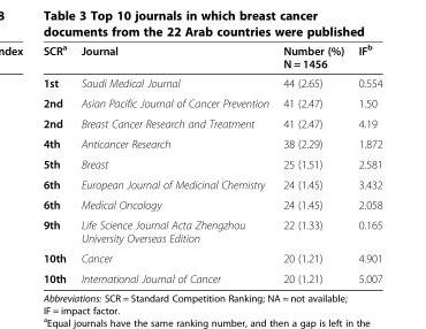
<table><thead><tr><td>SCR<sup>a</sup></td><td>Journal</td><td>Number (%) N = 1456</td><td>IF<sup>b</sup></td></tr></thead><tbody><tr><td>1st</td><td>Saudi Medical Journal</td><td>44 (2.65)</td><td>0.554</td></tr><tr><td>2nd</td><td>Asian Pacific Journal of Cancer Prevention</td><td>41 (2.47)</td><td>1.50</td></tr><tr><td>2nd</td><td>Breast Cancer Research and Treatment</td><td>41 (2.47)</td><td>4.19</td></tr><tr><td>4th</td><td>Anticancer Research</td><td>38 (2.29)</td><td>1.872</td></tr><tr><td>5th</td><td>Breast</td><td>25 (1.51)</td><td>2.581</td></tr><tr><td>6th</td><td>European Journal of Medicinal Chemistry</td><td>24 (1.45)</td><td>3.432</td></tr><tr><td>6th</td><td>Medical Oncology</td><td>24 (1.45)</td><td>2.058</td></tr><tr><td>9th</td><td>Life Science Journal Acta Zhengzhou University Overseas Edition</td><td>22 (1.33)</td><td>0.165</td></tr><tr><td>10th</td><td>Cancer</td><td>20 (1.21)</td><td>4.901</td></tr><tr><td>10th</td><td>International Journal of Cancer</td><td>20 (1.21)</td><td>5.007</td></tr></tbody></table>